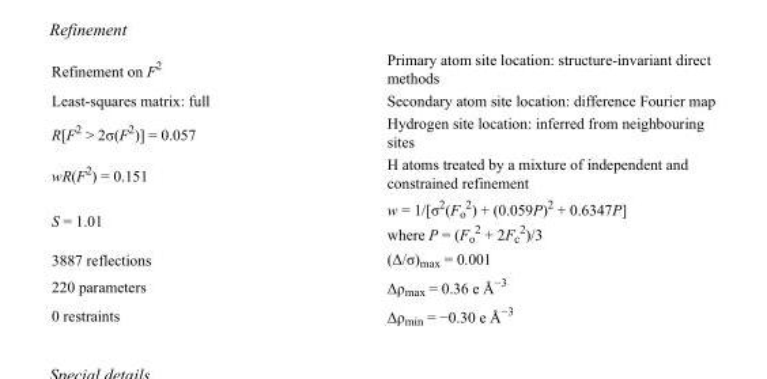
<table><tbody><tr><td>Refinement on F<sup>2</sup></td><td>Primary atom site location: structure-invariant direct methods</td></tr><tr><td>Least-squares matrix: full</td><td>Secondary atom site location: difference Fourier map</td></tr><tr><td>R[F<sup>2</sup> &gt; 2σ(F<sup>2</sup>)] = 0.057</td><td>Hydrogen site location: inferred from neighbouring sites</td></tr><tr><td>wR(F<sup>2</sup>) = 0.151</td><td>H atoms treated by a mixture of independent and constrained refinement</td></tr><tr><td>S = 1.01</td><td>w = 1/[σ<sup>2</sup>(F<sub>o</sub> <sup>2</sup>) + (0.059P)<sup>2</sup> + 0.6347P] where P = (F<sub>o</sub> <sup>2</sup> + 2F<sub>c</sub> <sup>2</sup>)/3</td></tr><tr><td>3887 reflections</td><td>(Δ/σ)<sub>max</sub> = 0.001</td></tr><tr><td>220 parameters</td><td>Δρ<sub>max</sub> = 0.36 e Å<sup>−3</sup></td></tr><tr><td>0 restraints</td><td>Δρ<sub>min</sub> = −0.30 e Å<sup>−3</sup></td></tr></tbody></table>